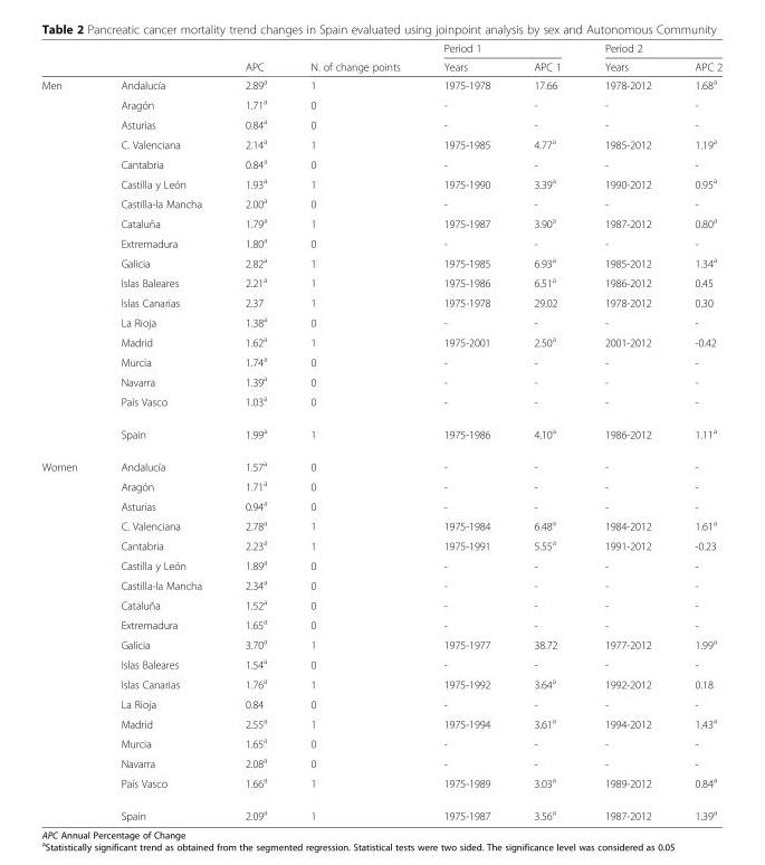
<table><thead><tr><td rowspan="2"></td><td rowspan="2"></td><td rowspan="2">APC</td><td rowspan="2">N. of change points</td><td colspan="2">Period 1</td><td colspan="2">Period 2</td></tr><tr><td>Years</td><td>APC 1</td><td>Years</td><td>APC 2</td></tr></thead><tbody><tr><td rowspan="18">Men</td><td>Andalucía</td><td>2.89<sup>a</sup></td><td>1</td><td>1975-1978</td><td>17.66</td><td>1978-2012</td><td>1.68<sup>a</sup></td></tr><tr><td>Aragón</td><td>1.71<sup>a</sup></td><td>0</td><td>-</td><td>-</td><td>-</td><td>-</td></tr><tr><td>Asturias</td><td>0.84<sup>a</sup></td><td>0</td><td>-</td><td>-</td><td>-</td><td>-</td></tr><tr><td>C. Valenciana</td><td>2.14<sup>a</sup></td><td>1</td><td>1975-1985</td><td>4.77<sup>a</sup></td><td>1985-2012</td><td>1.19<sup>a</sup></td></tr><tr><td>Cantabria</td><td>0.84<sup>a</sup></td><td>0</td><td>-</td><td>-</td><td>-</td><td>-</td></tr><tr><td>Castilla y León</td><td>1.93<sup>a</sup></td><td>1</td><td>1975-1990</td><td>3.39<sup>a</sup></td><td>1990-2012</td><td>0.95<sup>a</sup></td></tr><tr><td>Castilla-la Mancha</td><td>2.00<sup>a</sup></td><td>0</td><td>-</td><td>-</td><td>-</td><td>-</td></tr><tr><td>Cataluña</td><td>1.79<sup>a</sup></td><td>1</td><td>1975-1987</td><td>3.90<sup>a</sup></td><td>1987-2012</td><td>0.80<sup>a</sup></td></tr><tr><td>Extremadura</td><td>1.80<sup>a</sup></td><td>0</td><td>-</td><td>-</td><td>-</td><td>-</td></tr><tr><td>Galicia</td><td>2.82<sup>a</sup></td><td>1</td><td>1975-1985</td><td>6.93<sup>a</sup></td><td>1985-2012</td><td>1.34<sup>a</sup></td></tr><tr><td>Islas Baleares</td><td>2.21<sup>a</sup></td><td>1</td><td>1975-1986</td><td>6.51<sup>a</sup></td><td>1986-2012</td><td>0.45</td></tr><tr><td>Islas Canarias</td><td>2.37</td><td>1</td><td>1975-1978</td><td>29.02</td><td>1978-2012</td><td>0.30</td></tr><tr><td>La Rioja</td><td>1.38<sup>a</sup></td><td>0</td><td>-</td><td>-</td><td>-</td><td>-</td></tr><tr><td>Madrid</td><td>1.62<sup>a</sup></td><td>1</td><td>1975-2001</td><td>2.50<sup>a</sup></td><td>2001-2012</td><td>-0.42</td></tr><tr><td>Murcia</td><td>1.74<sup>a</sup></td><td>0</td><td>-</td><td>-</td><td>-</td><td>-</td></tr><tr><td>Navarra</td><td>1.39<sup>a</sup></td><td>0</td><td>-</td><td>-</td><td>-</td><td>-</td></tr><tr><td>País Vasco</td><td>1.03<sup>a</sup></td><td>0</td><td>-</td><td>-</td><td>-</td><td>-</td></tr><tr><td>Spain</td><td>1.99<sup>a</sup></td><td>1</td><td>1975-1986</td><td>4.10<sup>a</sup></td><td>1986-2012</td><td>1.11<sup>a</sup></td></tr><tr><td rowspan="18">Women</td><td>Andalucía</td><td>1.57<sup>a</sup></td><td>0</td><td>-</td><td>-</td><td>-</td><td>-</td></tr><tr><td>Aragón</td><td>1.71<sup>a</sup></td><td>0</td><td>-</td><td>-</td><td>-</td><td>-</td></tr><tr><td>Asturias</td><td>0.94<sup>a</sup></td><td>0</td><td>-</td><td>-</td><td>-</td><td>-</td></tr><tr><td>C. Valenciana</td><td>2.78<sup>a</sup></td><td>1</td><td>1975-1984</td><td>6.48<sup>a</sup></td><td>1984-2012</td><td>1.61<sup>a</sup></td></tr><tr><td>Cantabria</td><td>2.23<sup>a</sup></td><td>1</td><td>1975-1991</td><td>5.55<sup>a</sup></td><td>1991-2012</td><td>-0.23</td></tr><tr><td>Castilla y León</td><td>1.89<sup>a</sup></td><td>0</td><td>-</td><td>-</td><td>-</td><td>-</td></tr><tr><td>Castilla-la Mancha</td><td>2.34<sup>a</sup></td><td>0</td><td>-</td><td>-</td><td>-</td><td>-</td></tr><tr><td>Cataluña</td><td>1.52<sup>a</sup></td><td>0</td><td>-</td><td>-</td><td>-</td><td>-</td></tr><tr><td>Extremadura</td><td>1.65<sup>a</sup></td><td>0</td><td>-</td><td>-</td><td>-</td><td>-</td></tr><tr><td>Galicia</td><td>3.70<sup>a</sup></td><td>1</td><td>1975-1977</td><td>38.72</td><td>1977-2012</td><td>1.99<sup>a</sup></td></tr><tr><td>Islas Baleares</td><td>1.54<sup>a</sup></td><td>0</td><td>-</td><td>-</td><td>-</td><td>-</td></tr><tr><td>Islas Canarias</td><td>1.76<sup>a</sup></td><td>1</td><td>1975-1992</td><td>3.64<sup>a</sup></td><td>1992-2012</td><td>0.18</td></tr><tr><td>La Rioja</td><td>0.84</td><td>0</td><td>-</td><td>-</td><td>-</td><td>-</td></tr><tr><td>Madrid</td><td>2.55<sup>a</sup></td><td>1</td><td>1975-1994</td><td>3.61<sup>a</sup></td><td>1994-2012</td><td>1.43<sup>a</sup></td></tr><tr><td>Murcia</td><td>1.65<sup>a</sup></td><td>0</td><td>-</td><td>-</td><td>-</td><td>-</td></tr><tr><td>Navarra</td><td>2.08<sup>a</sup></td><td>0</td><td>-</td><td>-</td><td>-</td><td>-</td></tr><tr><td>País Vasco</td><td>1.66<sup>a</sup></td><td>1</td><td>1975-1989</td><td>3.03<sup>a</sup></td><td>1989-2012</td><td>0.84<sup>a</sup></td></tr><tr><td>Spain</td><td>2.09<sup>a</sup></td><td>1</td><td>1975-1987</td><td>3.56<sup>a</sup></td><td>1987-2012</td><td>1.39<sup>a</sup></td></tr></tbody></table>